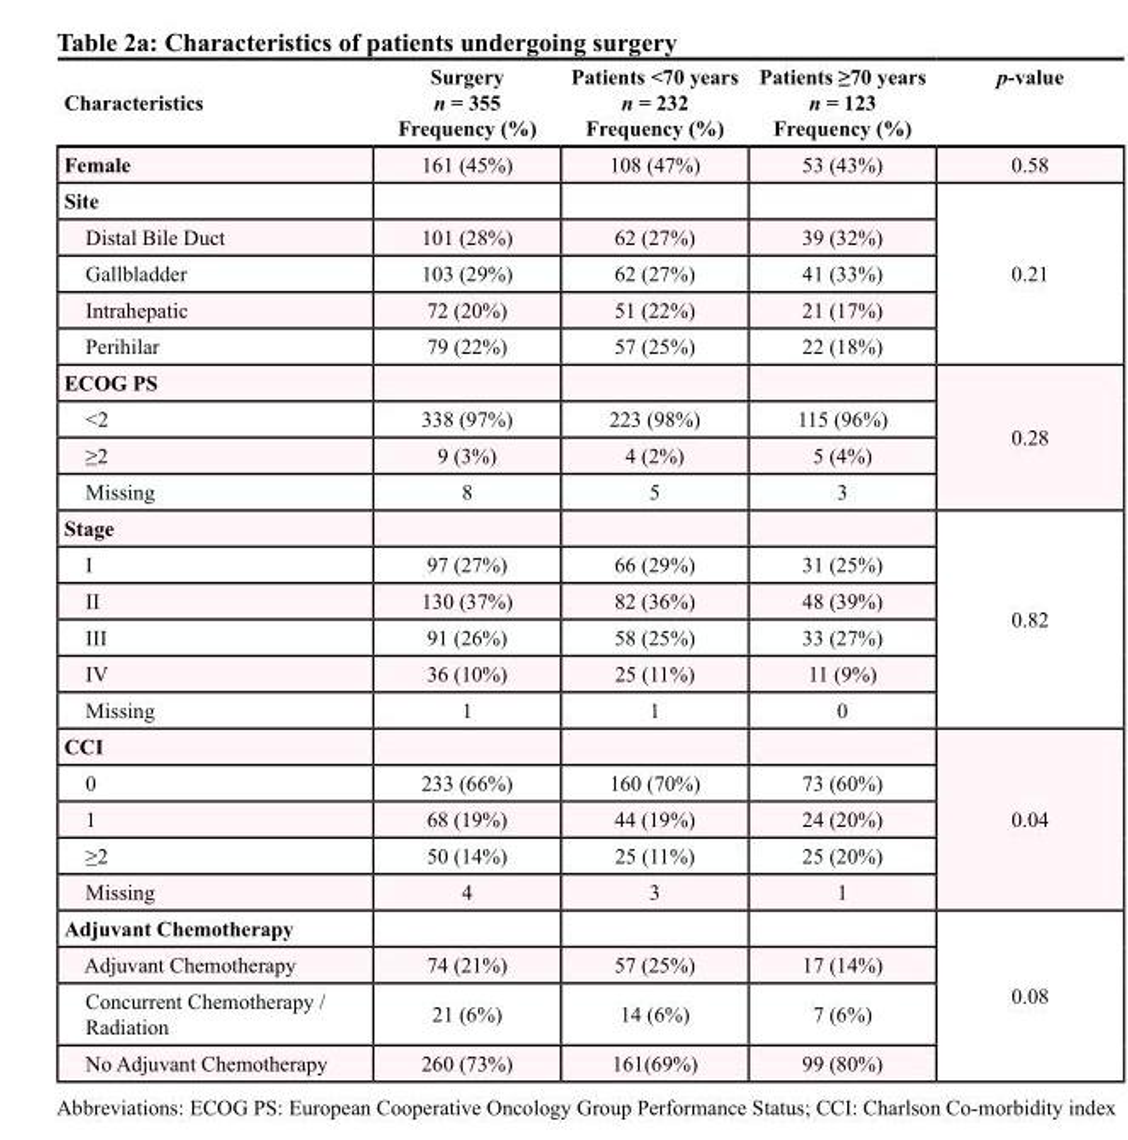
<table><thead><tr><td>Characteristics</td><td>Surgery n = 355 Frequency (%)</td><td>Patients &lt;70 years n = 232 Frequency (%)</td><td>Patients ≥70 years n = 123 Frequency (%)</td><td>p-value</td></tr></thead><tbody><tr><td>Female</td><td>161 (45%)</td><td>108 (47%)</td><td>53 (43%)</td><td>0.58</td></tr><tr><td colspan="4">Site</td><td rowspan="5">0.21</td></tr><tr><td>Distal Bile Duct</td><td>101 (28%)</td><td>62 (27%)</td><td>39 (32%)</td></tr><tr><td>Gallbladder</td><td>103 (29%)</td><td>62 (27%)</td><td>41 (33%)</td></tr><tr><td>Intrahepatic</td><td>72 (20%)</td><td>51 (22%)</td><td>21 (17%)</td></tr><tr><td>Perihilar</td><td>79 (22%)</td><td>57 (25%)</td><td>22 (18%)</td></tr><tr><td colspan="4">ECOG PS</td><td rowspan="4">0.28</td></tr><tr><td>&lt;2</td><td>338 (97%)</td><td>223 (98%)</td><td>115 (96%)</td></tr><tr><td>≥2</td><td>9 (3%)</td><td>4 (2%)</td><td>5 (4%)</td></tr><tr><td>Missing</td><td>8</td><td>5</td><td>3</td></tr><tr><td colspan="4">Stage</td><td rowspan="6">0.82</td></tr><tr><td>I</td><td>97 (27%)</td><td>66 (29%)</td><td>31 (25%)</td></tr><tr><td>II</td><td>130 (37%)</td><td>82 (36%)</td><td>48 (39%)</td></tr><tr><td>III</td><td>91 (26%)</td><td>58 (25%)</td><td>33 (27%)</td></tr><tr><td>IV</td><td>36 (10%)</td><td>25 (11%)</td><td>11 (9%)</td></tr><tr><td>Missing</td><td>1</td><td>1</td><td>0</td></tr><tr><td colspan="4">CCI</td><td rowspan="5">0.04</td></tr><tr><td>0</td><td>233 (66%)</td><td>160 (70%)</td><td>73 (60%)</td></tr><tr><td>1</td><td>68 (19%)</td><td>44 (19%)</td><td>24 (20%)</td></tr><tr><td>≥2</td><td>50 (14%)</td><td>25 (11%)</td><td>25 (20%)</td></tr><tr><td>Missing</td><td>4</td><td>3</td><td>1</td></tr><tr><td colspan="4">Adjuvant Chemotherapy</td><td rowspan="4">0.08</td></tr><tr><td>Adjuvant Chemotherapy</td><td>74 (21%)</td><td>57 (25%)</td><td>17 (14%)</td></tr><tr><td>Concurrent Chemotherapy / Radiation</td><td>21 (6%)</td><td>14 (6%)</td><td>7 (6%)</td></tr><tr><td>No Adjuvant Chemotherapy</td><td>260 (73%)</td><td>161(69%)</td><td>99 (80%)</td></tr></tbody></table>